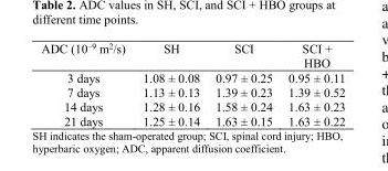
<table><thead><tr><td>ADC (10<sup>–9</sup> m<sup>2</sup>/s)</td><td>SH</td><td>SCI</td><td>SCI + HBO</td></tr></thead><tbody><tr><td>3 days</td><td>1.08 ± 0.08</td><td>0.97 ± 0.25</td><td>0.95 ± 0.11</td></tr><tr><td>7 days</td><td>1.13 ± 0.13</td><td>1.39 ± 0.23</td><td>1.39 ± 0.52</td></tr><tr><td>14 days</td><td>1.28 ± 0.16</td><td>1.58 ± 0.24</td><td>1.63 ± 0.23</td></tr><tr><td>21 days</td><td>1.25 ± 0.14</td><td>1.63 ± 0.15</td><td>1.63 ± 0.22</td></tr></tbody></table>